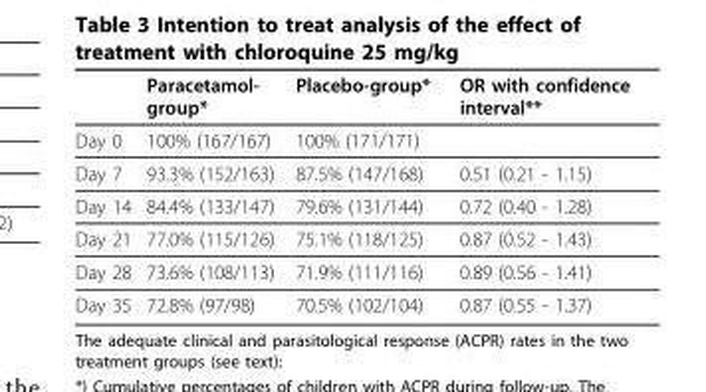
<table><thead><tr><td></td><td>Paracetamol- group*</td><td>Placebo-group*</td><td>OR with confidence interval**</td></tr></thead><tbody><tr><td>Day 0</td><td>100% (167/167)</td><td>100% (171/171)</td><td></td></tr><tr><td>Day 7</td><td>93.3% (152/163)</td><td>87.5% (147/168)</td><td>0.51 (0.21 - 1.15)</td></tr><tr><td>Day 14</td><td>84.4% (133/147)</td><td>79.6% (131/144)</td><td>0.72 (0.40 - 1.28)</td></tr><tr><td>Day 21</td><td>77.0% (115/126)</td><td>75.1% (118/125)</td><td>0.87 (0.52 - 1.43)</td></tr><tr><td>Day 28</td><td>73.6% (108/113)</td><td>71.9% (111/116)</td><td>0.89 (0.56 - 1.41)</td></tr><tr><td>Day 35</td><td>72.8% (97/98)</td><td>70.5% (102/104)</td><td>0.87 (0.55 - 1.37)</td></tr></tbody></table>